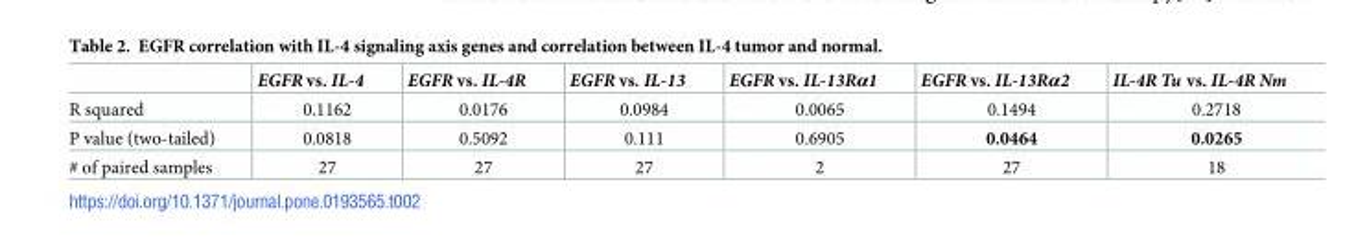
<table><thead><tr><td></td><td>EGFR vs. IL-4</td><td>EGFR vs. IL-4R</td><td>EGFR vs. IL-13</td><td>EGFR vs. IL-13Rα1</td><td>EGFR vs. IL-13Rα2</td><td>IL-4R Tu vs. IL-4R Nm</td></tr></thead><tbody><tr><td>R squared</td><td>0.1162</td><td>0.0176</td><td>0.0984</td><td>0.0065</td><td>0.1494</td><td>0.2718</td></tr><tr><td>P value (two-tailed)</td><td>0.0818</td><td>0.5092</td><td>0.111</td><td>0.6905</td><td>0.0464</td><td>0.0265</td></tr><tr><td># of paired samples</td><td>27</td><td>27</td><td>27</td><td>2</td><td>27</td><td>18</td></tr></tbody></table>